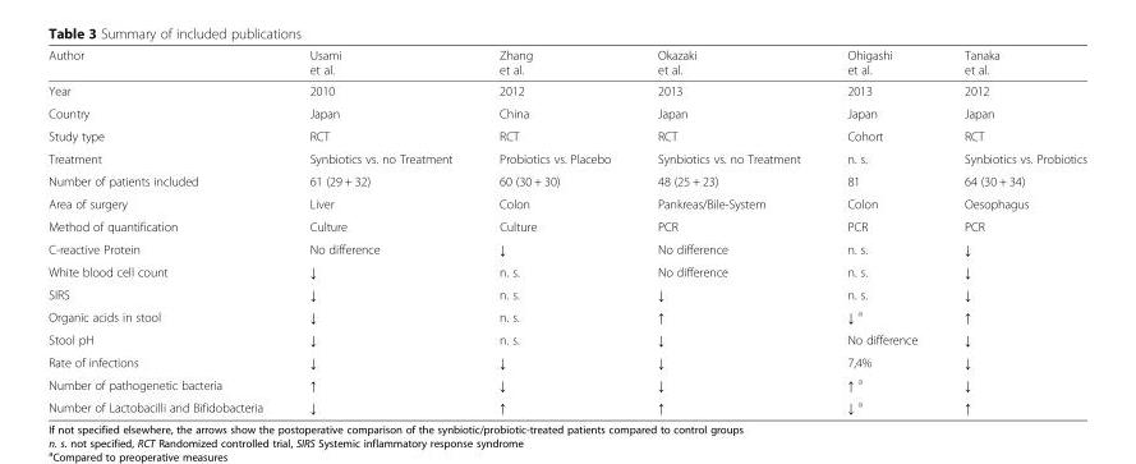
<table><thead><tr><td>Author</td><td>Usami et al.</td><td>Zhang et al.</td><td>Okazaki et al.</td><td>Ohigashi et al.</td><td>Tanaka et al.</td></tr></thead><tbody><tr><td>Year</td><td>2010</td><td>2012</td><td>2013</td><td>2013</td><td>2012</td></tr><tr><td>Country</td><td>Japan</td><td>China</td><td>Japan</td><td>Japan</td><td>Japan</td></tr><tr><td>Study type</td><td>RCT</td><td>RCT</td><td>RCT</td><td>Cohort</td><td>RCT</td></tr><tr><td>Treatment</td><td>Synbiotics vs. no Treatment</td><td>Probiotics vs. Placebo</td><td>Synbiotics vs. no Treatment</td><td>n. s.</td><td>Synbiotics vs. Probiotics</td></tr><tr><td>Number of patients included</td><td>61 (29 + 32)</td><td>60 (30 + 30)</td><td>48 (25 + 23)</td><td>81</td><td>64 (30 + 34)</td></tr><tr><td>Area of surgery</td><td>Liver</td><td>Colon</td><td>Pankreas/Bile-System</td><td>Colon</td><td>Oesophagus</td></tr><tr><td>Method of quantification</td><td>Culture</td><td>Culture</td><td>PCR</td><td>PCR</td><td>PCR</td></tr><tr><td>C-reactive Protein</td><td>No difference</td><td>↓</td><td>No difference</td><td>n. s.</td><td>↓</td></tr><tr><td>White blood cell count</td><td>↓</td><td>n. s.</td><td>No difference</td><td>n. s.</td><td>↓</td></tr><tr><td>SIRS</td><td>↓</td><td>n. s.</td><td>↓</td><td>n. s.</td><td>↓</td></tr><tr><td>Organic acids in stool</td><td>↓</td><td>n. s.</td><td>↑</td><td>↓ <sup>a</sup></td><td>↑</td></tr><tr><td>Stool pH</td><td>↓</td><td>n. s.</td><td>↓</td><td>No difference</td><td>↓</td></tr><tr><td>Rate of infections</td><td>↓</td><td>↓</td><td>↓</td><td>7,4%</td><td>↓</td></tr><tr><td>Number of pathogenetic bacteria</td><td>↑</td><td>↓</td><td>↓</td><td>↑ <sup>a</sup></td><td>↓</td></tr><tr><td>Number of Lactobacilli and Bifidobacteria</td><td>↓</td><td>↑</td><td>↑</td><td>↓ <sup>a</sup></td><td>↑</td></tr></tbody></table>